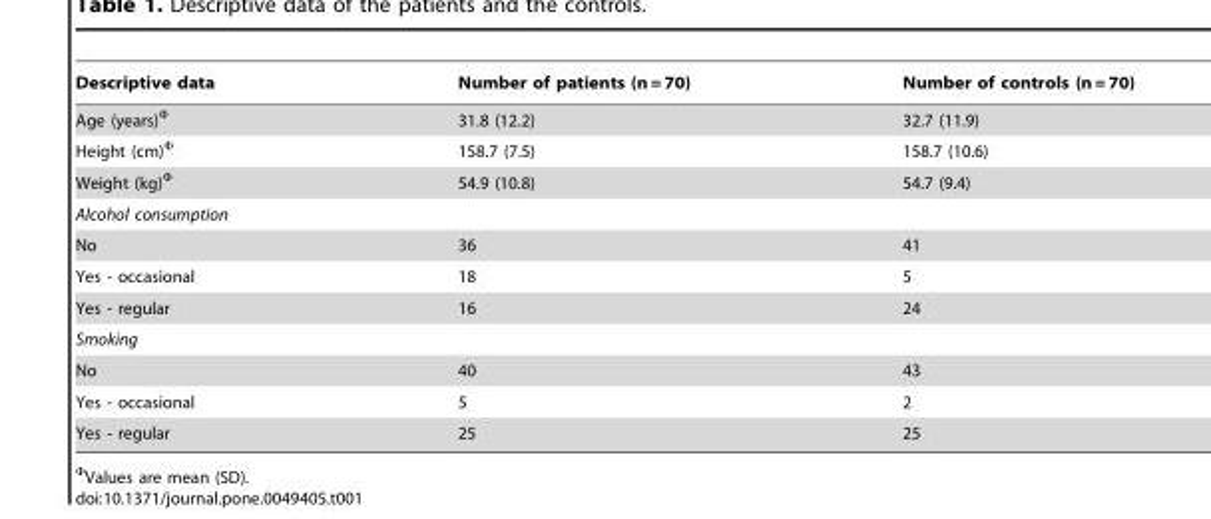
<table><thead><tr><td>Descriptive data</td><td>Number of patients (n = 70)</td><td>Number of controls (n = 70)</td></tr></thead><tbody><tr><td>Age (years)Φ</td><td>31.8 (12.2)</td><td>32.7 (11.9)</td></tr><tr><td>Height (cm)Φ</td><td>158.7 (7.5)</td><td>158.7 (10.6)</td></tr><tr><td>Weight (kg)Φ</td><td>54.9 (10.8)</td><td>54.7 (9.4)</td></tr><tr><td colspan="3">Alcohol consumption</td></tr><tr><td>No</td><td>36</td><td>41</td></tr><tr><td>Yes - occasional</td><td>18</td><td>5</td></tr><tr><td>Yes - regular</td><td>16</td><td>24</td></tr><tr><td colspan="3">Smoking</td></tr><tr><td>No</td><td>40</td><td>43</td></tr><tr><td>Yes - occasional</td><td>5</td><td>2</td></tr><tr><td>Yes - regular</td><td>25</td><td>25</td></tr></tbody></table>